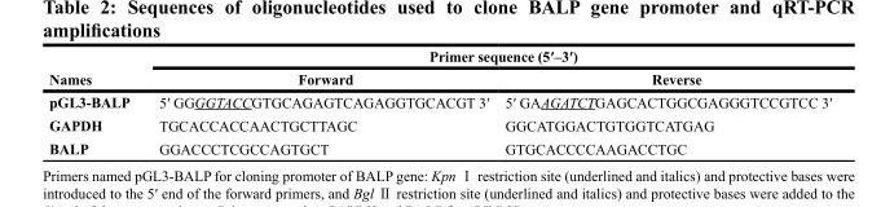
<table><thead><tr><td rowspan="2">Names</td><td colspan="2">Primer sequence (5′–3′)</td></tr><tr><td>Forward</td><td>Reverse</td></tr></thead><tbody><tr><td>pGL3-BALP</td><td>5′ GGGGTACCGTGCAGAGTCAGAGGTGCACGT 3′</td><td>5′ GAAGATCTGAGCACTGGCGAGGGTCCGTCC 3′</td></tr><tr><td>GAPDH</td><td>TGCACCACCAACTGCTTAGC</td><td>GGCATGGACTGTGGTCATGAG</td></tr><tr><td>BALP</td><td>GGACCCTCGCCAGTGCT</td><td>GTGCACCCCAAGACCTGC</td></tr></tbody></table>